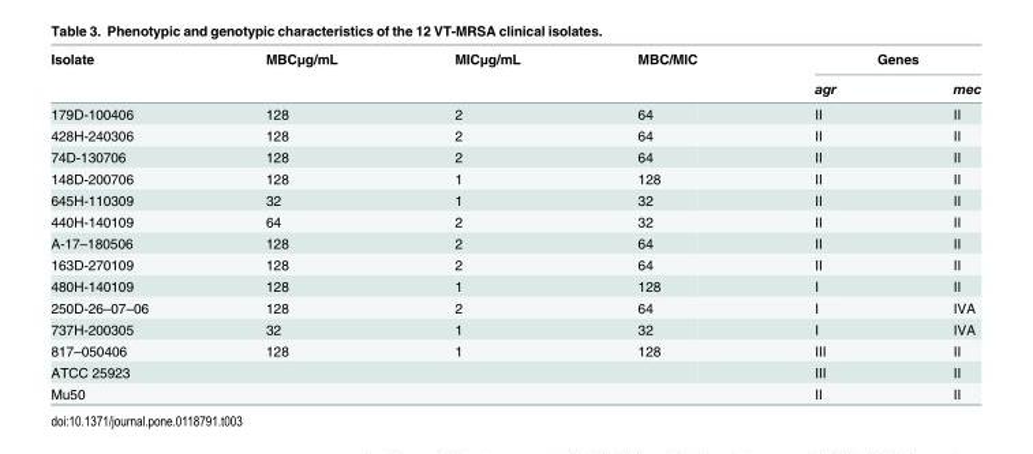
<table><thead><tr><td rowspan="2">Isolate</td><td rowspan="2">MBCμg/mL</td><td rowspan="2">MICμg/mL</td><td rowspan="2">MBC/MIC</td><td colspan="2">Genes</td></tr><tr><td>agr</td><td>mec</td></tr></thead><tbody><tr><td>179D-100406</td><td>128</td><td>2</td><td>64</td><td>II</td><td>II</td></tr><tr><td>428H-240306</td><td>128</td><td>2</td><td>64</td><td>II</td><td>II</td></tr><tr><td>74D-130706</td><td>128</td><td>2</td><td>64</td><td>II</td><td>II</td></tr><tr><td>148D-200706</td><td>128</td><td>1</td><td>128</td><td>II</td><td>II</td></tr><tr><td>645H-110309</td><td>32</td><td>1</td><td>32</td><td>II</td><td>II</td></tr><tr><td>440H-140109</td><td>64</td><td>2</td><td>32</td><td>II</td><td>II</td></tr><tr><td>A-17–180506</td><td>128</td><td>2</td><td>64</td><td>II</td><td>II</td></tr><tr><td>163D-270109</td><td>128</td><td>2</td><td>64</td><td>II</td><td>II</td></tr><tr><td>480H-140109</td><td>128</td><td>1</td><td>128</td><td>I</td><td>II</td></tr><tr><td>250D-26–07–06</td><td>128</td><td>2</td><td>64</td><td>I</td><td>IVA</td></tr><tr><td>737H-200305</td><td>32</td><td>1</td><td>32</td><td>I</td><td>IVA</td></tr><tr><td>817–050406</td><td>128</td><td>1</td><td>128</td><td>III</td><td>II</td></tr><tr><td>ATCC 25923</td><td></td><td></td><td></td><td>III</td><td>II</td></tr><tr><td>Mu50</td><td></td><td></td><td></td><td>II</td><td>II</td></tr></tbody></table>